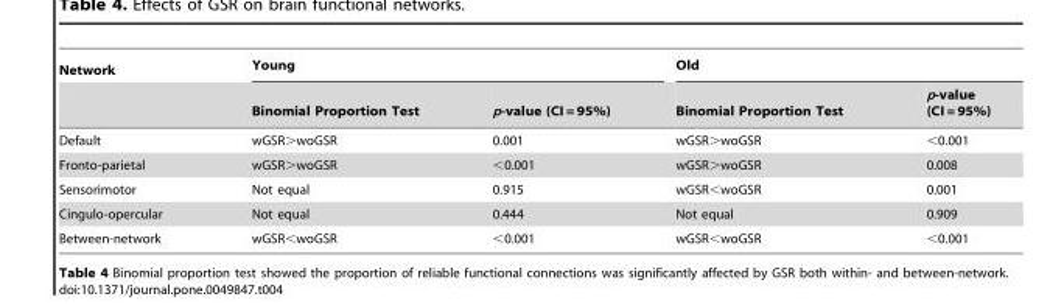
<table><thead><tr><td rowspan="2">Network</td><td colspan="2">Young</td><td colspan="2">Old</td></tr><tr><td>Binomial Proportion Test</td><td>p-value (CI = 95%)</td><td>Binomial Proportion Test</td><td>p-value (CI = 95%)</td></tr></thead><tbody><tr><td>Default</td><td>wGSR&gt;woGSR</td><td>0.001</td><td>wGSR&gt;woGSR</td><td>&lt;0.001</td></tr><tr><td>Fronto-parietal</td><td>wGSR&gt;woGSR</td><td>&lt;0.001</td><td>wGSR&gt;woGSR</td><td>0.008</td></tr><tr><td>Sensorimotor</td><td>Not equal</td><td>0.915</td><td>wGSR&lt;woGSR</td><td>0.001</td></tr><tr><td>Cingulo-opercular</td><td>Not equal</td><td>0.444</td><td>Not equal</td><td>0.909</td></tr><tr><td>Between-network</td><td>wGSR&lt;woGSR</td><td>&lt;0.001</td><td>wGSR&lt;woGSR</td><td>&lt;0.001</td></tr></tbody></table>